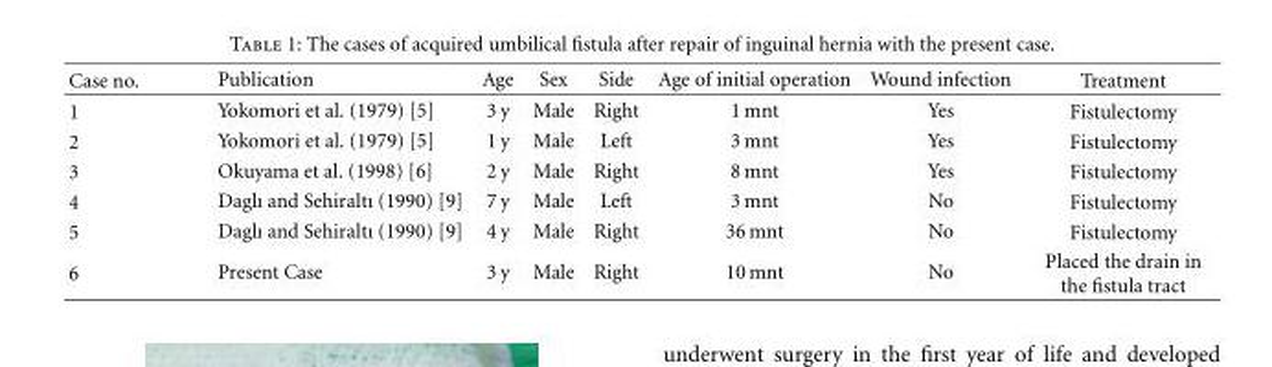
<table><thead><tr><td>Case no.</td><td>Publication</td><td>Age</td><td>Sex</td><td>Side</td><td>Age of initial operation</td><td>Wound infection</td><td>Treatment</td></tr></thead><tbody><tr><td>1</td><td>Yokomori et al. (1979) [5]</td><td>3 y</td><td>Male</td><td>Right</td><td>1 mnt</td><td>Yes</td><td>Fistulectomy</td></tr><tr><td>2</td><td>Yokomori et al. (1979) [5]</td><td>1 y</td><td>Male</td><td>Left</td><td>3 mnt</td><td>Yes</td><td>Fistulectomy</td></tr><tr><td>3</td><td>Okuyama et al. (1998) [6]</td><td>2 y</td><td>Male</td><td>Right</td><td>8 mnt</td><td>Yes</td><td>Fistulectomy</td></tr><tr><td>4</td><td>Daglı and Sehiraltı (1990) [9]</td><td>7 y</td><td>Male</td><td>Left</td><td>3 mnt</td><td>No</td><td>Fistulectomy</td></tr><tr><td>5</td><td>Daglı and Sehiraltı (1990) [9]</td><td>4 y</td><td>Male</td><td>Right</td><td>36 mnt</td><td>No</td><td>Fistulectomy</td></tr><tr><td>6</td><td>Present Case</td><td>3 y</td><td>Male</td><td>Right</td><td>10 mnt</td><td>No</td><td>Placed the drain in the fistula tract</td></tr></tbody></table>